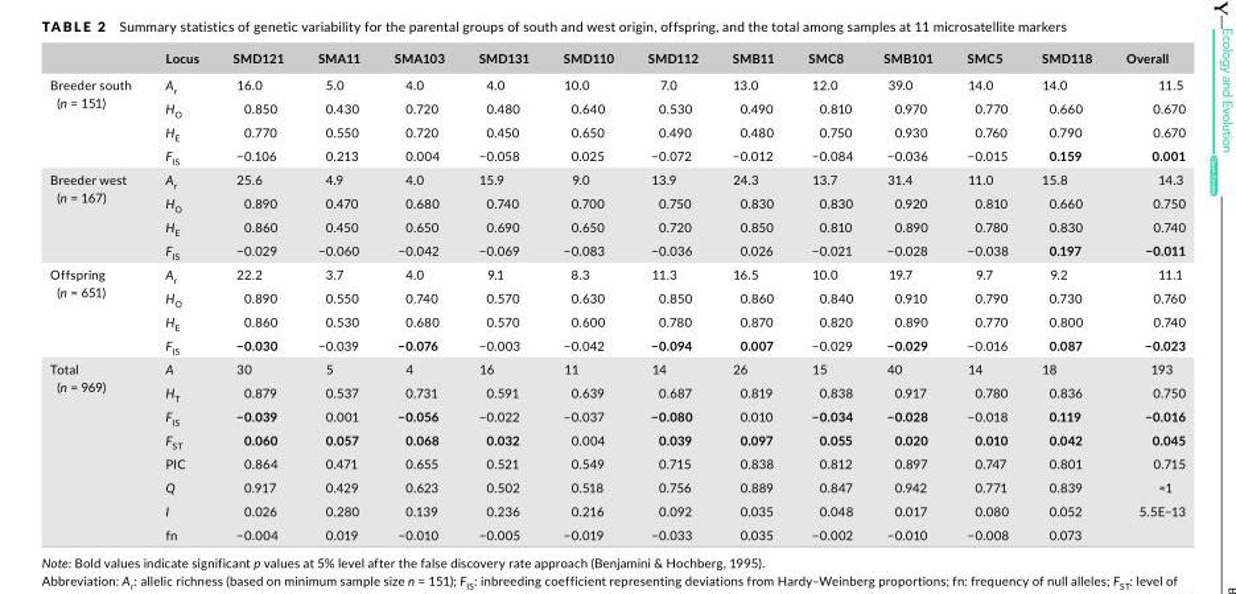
<table><thead><tr><td></td><td>Locus</td><td>SMD121</td><td>SMA11</td><td>SMA103</td><td>SMD131</td><td>SMD110</td><td>SMD112</td><td>SMB11</td><td>SMC8</td><td>SMB101</td><td>SMC5</td><td>SMD118</td><td>Overall</td></tr></thead><tbody><tr><td rowspan="4">Breeder south (n = 151)</td><td>A<sub>r</sub></td><td>16.0</td><td>5.0</td><td>4.0</td><td>4.0</td><td>10.0</td><td>7.0</td><td>13.0</td><td>12.0</td><td>39.0</td><td>14.0</td><td>14.0</td><td>11.5</td></tr><tr><td>H<sub>O</sub></td><td>0.850</td><td>0.430</td><td>0.720</td><td>0.480</td><td>0.640</td><td>0.530</td><td>0.490</td><td>0.810</td><td>0.970</td><td>0.770</td><td>0.660</td><td>0.670</td></tr><tr><td>H<sub>E</sub></td><td>0.770</td><td>0.550</td><td>0.720</td><td>0.450</td><td>0.650</td><td>0.490</td><td>0.480</td><td>0.750</td><td>0.930</td><td>0.760</td><td>0.790</td><td>0.670</td></tr><tr><td>F<sub>IS</sub></td><td>−0.106</td><td>0.213</td><td>0.004</td><td>−0.058</td><td>0.025</td><td>−0.072</td><td>−0.012</td><td>−0.084</td><td>−0.036</td><td>−0.015</td><td>0.159</td><td>0.001</td></tr><tr><td rowspan="4">Breeder west (n = 167)</td><td>A<sub>r</sub></td><td>25.6</td><td>4.9</td><td>4.0</td><td>15.9</td><td>9.0</td><td>13.9</td><td>24.3</td><td>13.7</td><td>31.4</td><td>11.0</td><td>15.8</td><td>14.3</td></tr><tr><td>H<sub>O</sub></td><td>0.890</td><td>0.470</td><td>0.680</td><td>0.740</td><td>0.700</td><td>0.750</td><td>0.830</td><td>0.830</td><td>0.920</td><td>0.810</td><td>0.660</td><td>0.750</td></tr><tr><td>H<sub>E</sub></td><td>0.860</td><td>0.450</td><td>0.650</td><td>0.690</td><td>0.650</td><td>0.720</td><td>0.850</td><td>0.810</td><td>0.890</td><td>0.780</td><td>0.830</td><td>0.740</td></tr><tr><td>F<sub>IS</sub></td><td>−0.029</td><td>−0.060</td><td>−0.042</td><td>−0.069</td><td>−0.083</td><td>−0.036</td><td>0.026</td><td>−0.021</td><td>−0.028</td><td>−0.038</td><td>0.197</td><td>−0.011</td></tr><tr><td rowspan="4">Offspring (n = 651)</td><td>A<sub>r</sub></td><td>22.2</td><td>3.7</td><td>4.0</td><td>9.1</td><td>8.3</td><td>11.3</td><td>16.5</td><td>10.0</td><td>19.7</td><td>9.7</td><td>9.2</td><td>11.1</td></tr><tr><td>H<sub>O</sub></td><td>0.890</td><td>0.550</td><td>0.740</td><td>0.570</td><td>0.630</td><td>0.850</td><td>0.860</td><td>0.840</td><td>0.910</td><td>0.790</td><td>0.730</td><td>0.760</td></tr><tr><td>H<sub>E</sub></td><td>0.860</td><td>0.530</td><td>0.680</td><td>0.570</td><td>0.600</td><td>0.780</td><td>0.870</td><td>0.820</td><td>0.890</td><td>0.770</td><td>0.800</td><td>0.740</td></tr><tr><td>F<sub>IS</sub></td><td>−0.030</td><td>−0.039</td><td>−0.076</td><td>−0.003</td><td>−0.042</td><td>−0.094</td><td>0.007</td><td>−0.029</td><td>−0.029</td><td>−0.016</td><td>0.087</td><td>−0.023</td></tr><tr><td rowspan="8">Total (n = 969)</td><td>A</td><td>30</td><td>5</td><td>4</td><td>16</td><td>11</td><td>14</td><td>26</td><td>15</td><td>40</td><td>14</td><td>18</td><td>193</td></tr><tr><td>H<sub>T</sub></td><td>0.879</td><td>0.537</td><td>0.731</td><td>0.591</td><td>0.639</td><td>0.687</td><td>0.819</td><td>0.838</td><td>0.917</td><td>0.780</td><td>0.836</td><td>0.750</td></tr><tr><td>F<sub>IS</sub></td><td>−0.039</td><td>0.001</td><td>−0.056</td><td>−0.022</td><td>−0.037</td><td>−0.080</td><td>0.010</td><td>−0.034</td><td>−0.028</td><td>−0.018</td><td>0.119</td><td>−0.016</td></tr><tr><td>F<sub>ST</sub></td><td>0.060</td><td>0.057</td><td>0.068</td><td>0.032</td><td>0.004</td><td>0.039</td><td>0.097</td><td>0.055</td><td>0.020</td><td>0.010</td><td>0.042</td><td>0.045</td></tr><tr><td>PIC</td><td>0.864</td><td>0.471</td><td>0.655</td><td>0.521</td><td>0.549</td><td>0.715</td><td>0.838</td><td>0.812</td><td>0.897</td><td>0.747</td><td>0.801</td><td>0.715</td></tr><tr><td>Q</td><td>0.917</td><td>0.429</td><td>0.623</td><td>0.502</td><td>0.518</td><td>0.756</td><td>0.889</td><td>0.847</td><td>0.942</td><td>0.771</td><td>0.839</td><td>≈1</td></tr><tr><td>I</td><td>0.026</td><td>0.280</td><td>0.139</td><td>0.236</td><td>0.216</td><td>0.092</td><td>0.035</td><td>0.048</td><td>0.017</td><td>0.080</td><td>0.052</td><td>5.5E−13</td></tr><tr><td>fn</td><td>−0.004</td><td>0.019</td><td>−0.010</td><td>−0.005</td><td>−0.019</td><td>−0.033</td><td>0.035</td><td>−0.002</td><td>−0.010</td><td>−0.008</td><td>0.073</td><td></td></tr></tbody></table>